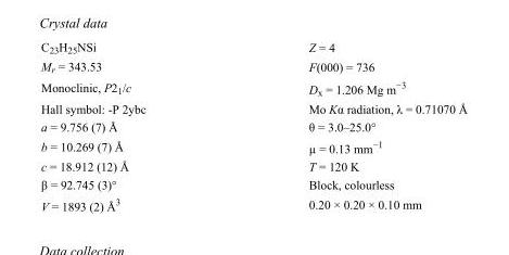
<table><tbody><tr><td>C<sub>23</sub>H<sub>25</sub>NSi</td><td>Z = 4</td></tr><tr><td>M<sub>r</sub> = 343.53</td><td>F(000) = 736</td></tr><tr><td>Monoclinic, P2<sub>1</sub>/c</td><td>D<sub>x</sub> = 1.206 Mg m<sup>−3</sup></td></tr><tr><td>Hall symbol: -P 2ybc</td><td>Mo Kα radiation, λ = 0.71070 Å</td></tr><tr><td>a = 9.756 (7) Å</td><td>θ = 3.0–25.0°</td></tr><tr><td>b = 10.269 (7) Å</td><td>µ = 0.13 mm<sup>−1</sup></td></tr><tr><td>c = 18.912 (12) Å</td><td>T = 120 K</td></tr><tr><td>β = 92.745 (3)°</td><td>Block, colourless</td></tr><tr><td>V = 1893 (2) Å<sup>3</sup></td><td>0.20 × 0.20 × 0.10 mm</td></tr></tbody></table>